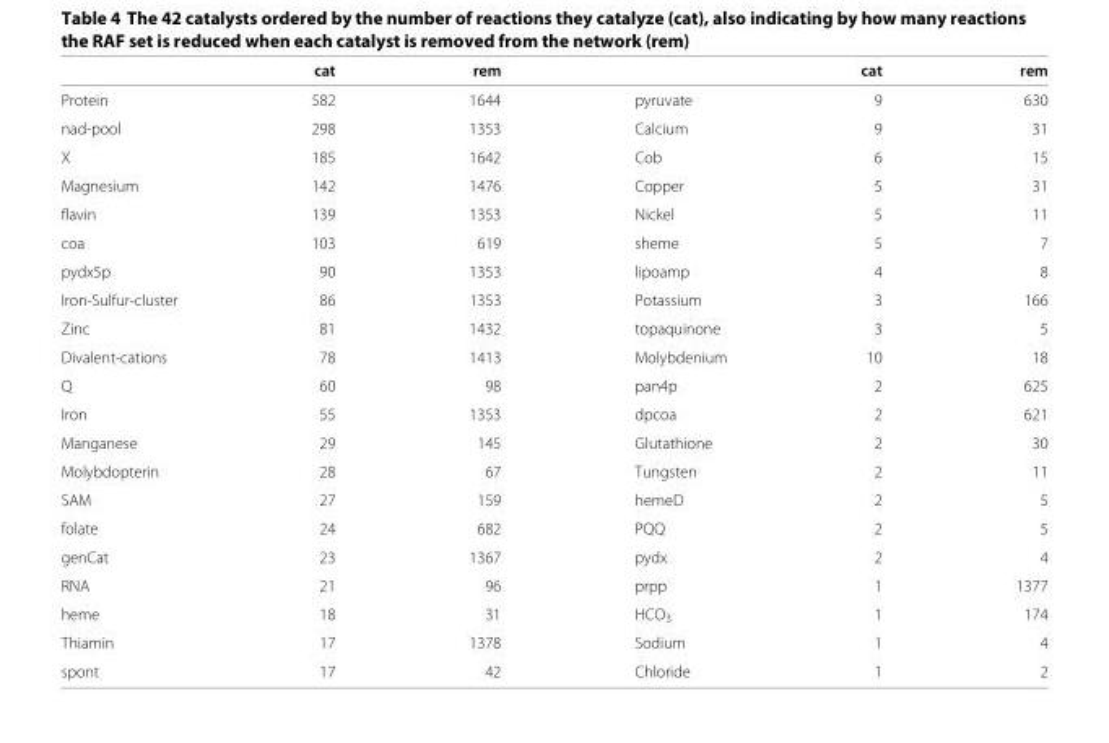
<table><thead><tr><td></td><td>cat</td><td>rem</td><td></td><td>cat</td><td>rem</td></tr></thead><tbody><tr><td>Protein</td><td>582</td><td>1644</td><td>pyruvate</td><td>9</td><td>630</td></tr><tr><td>nad-pool</td><td>298</td><td>1353</td><td>Calcium</td><td>9</td><td>31</td></tr><tr><td>X</td><td>185</td><td>1642</td><td>Cob</td><td>6</td><td>15</td></tr><tr><td>Magnesium</td><td>142</td><td>1476</td><td>Copper</td><td>5</td><td>31</td></tr><tr><td>flavin</td><td>139</td><td>1353</td><td>Nickel</td><td>5</td><td>11</td></tr><tr><td>coa</td><td>103</td><td>619</td><td>sheme</td><td>5</td><td>7</td></tr><tr><td>pydx5p</td><td>90</td><td>1353</td><td>lipoamp</td><td>4</td><td>8</td></tr><tr><td>Iron-Sulfur-cluster</td><td>86</td><td>1353</td><td>Potassium</td><td>3</td><td>166</td></tr><tr><td>Zinc</td><td>81</td><td>1432</td><td>topaquinone</td><td>3</td><td>5</td></tr><tr><td>Divalent-cations</td><td>78</td><td>1413</td><td>Molybdenium</td><td>10</td><td>18</td></tr><tr><td>Q</td><td>60</td><td>98</td><td>pan4p</td><td>2</td><td>625</td></tr><tr><td>Iron</td><td>55</td><td>1353</td><td>dpcoa</td><td>2</td><td>621</td></tr><tr><td>Manganese</td><td>29</td><td>145</td><td>Glutathione</td><td>2</td><td>30</td></tr><tr><td>Molybdopterin</td><td>28</td><td>67</td><td>Tungsten</td><td>2</td><td>11</td></tr><tr><td>SAM</td><td>27</td><td>159</td><td>hemeD</td><td>2</td><td>5</td></tr><tr><td>folate</td><td>24</td><td>682</td><td>PQQ</td><td>2</td><td>5</td></tr><tr><td>genCat</td><td>23</td><td>1367</td><td>pydx</td><td>2</td><td>4</td></tr><tr><td>RNA</td><td>21</td><td>96</td><td>prpp</td><td>1</td><td>1377</td></tr><tr><td>heme</td><td>18</td><td>31</td><td>HCO<sub>3</sub></td><td>1</td><td>174</td></tr><tr><td>Thiamin</td><td>17</td><td>1378</td><td>Sodium</td><td>1</td><td>4</td></tr><tr><td>spont</td><td>17</td><td>42</td><td>Chloride</td><td>1</td><td>2</td></tr></tbody></table>